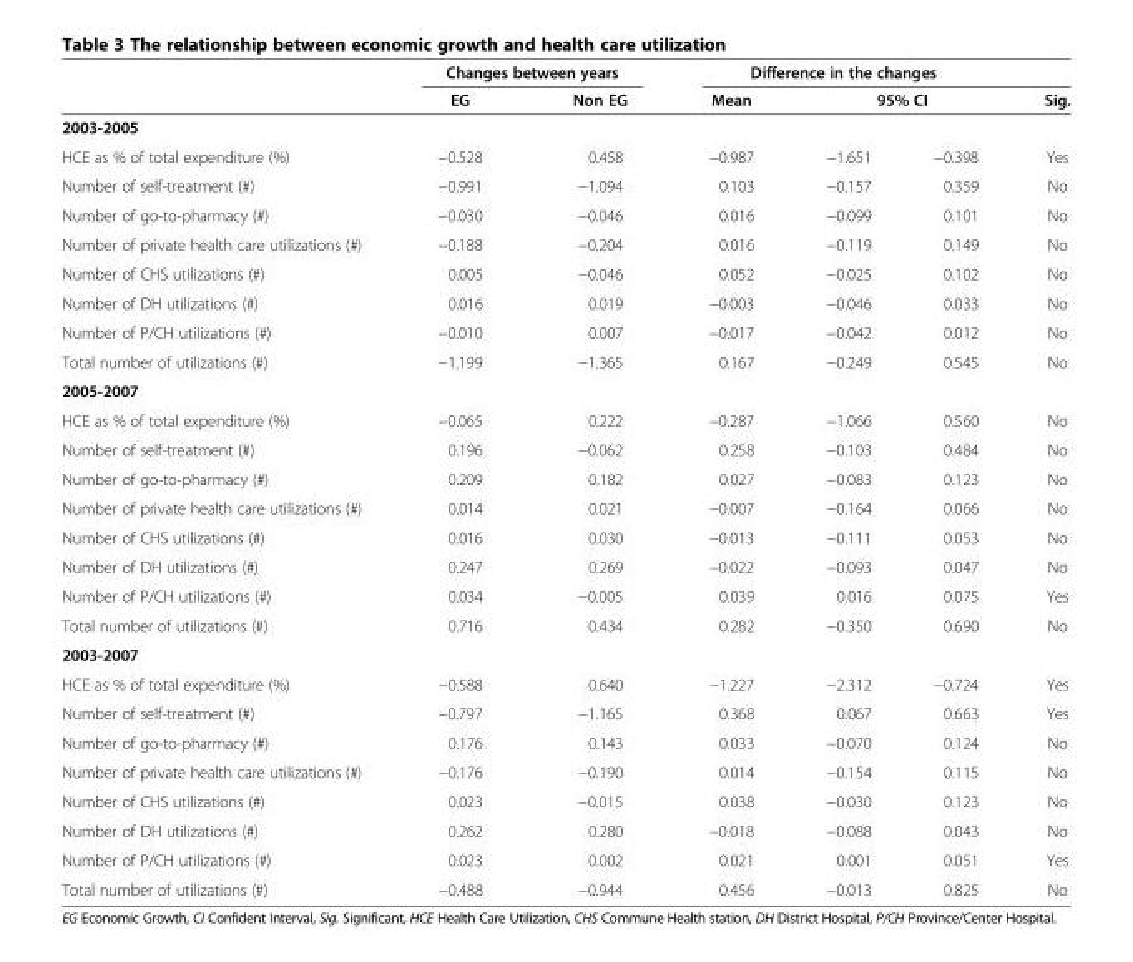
<table><thead><tr><td rowspan="3">2003-2005</td><td colspan="2">Changes between years</td><td colspan="3">Difference in the changes</td><td rowspan="3">Sig.</td></tr><tr><td rowspan="2">EG</td><td rowspan="2">Non EG</td><td rowspan="2">Mean</td><td colspan="2">95% CI</td></tr><tr><td></td><td></td></tr></thead><tbody><tr><td>HCE as % of total expenditure (%)</td><td>−0.528</td><td>0.458</td><td>−0.987</td><td>−1.651</td><td>−0.398</td><td>Yes</td></tr><tr><td>Number of self-treatment (#)</td><td>−0.991</td><td>−1.094</td><td>0.103</td><td>−0.157</td><td>0.359</td><td>No</td></tr><tr><td>Number of go-to-pharmacy (#)</td><td>−0.030</td><td>−0.046</td><td>0.016</td><td>−0.099</td><td>0.101</td><td>No</td></tr><tr><td>Number of private health care utilizations (#)</td><td>−0.188</td><td>−0.204</td><td>0.016</td><td>−0.119</td><td>0.149</td><td>No</td></tr><tr><td>Number of CHS utilizations (#)</td><td>0.005</td><td>−0.046</td><td>0.052</td><td>−0.025</td><td>0.102</td><td>No</td></tr><tr><td>Number of DH utilizations (#)</td><td>0.016</td><td>0.019</td><td>−0.003</td><td>−0.046</td><td>0.033</td><td>No</td></tr><tr><td>Number of P/CH utilizations (#)</td><td>−0.010</td><td>0.007</td><td>−0.017</td><td>−0.042</td><td>0.012</td><td>No</td></tr><tr><td>Total number of utilizations (#)</td><td>−1.199</td><td>−1.365</td><td>0.167</td><td>−0.249</td><td>0.545</td><td>No</td></tr><tr><td colspan="7">2005-2007</td></tr><tr><td>HCE as % of total expenditure (%)</td><td>−0.065</td><td>0.222</td><td>−0.287</td><td>−1.066</td><td>0.560</td><td>No</td></tr><tr><td>Number of self-treatment (#)</td><td>0.196</td><td>−0.062</td><td>0.258</td><td>−0.103</td><td>0.484</td><td>No</td></tr><tr><td>Number of go-to-pharmacy (#)</td><td>0.209</td><td>0.182</td><td>0.027</td><td>−0.083</td><td>0.123</td><td>No</td></tr><tr><td>Number of private health care utilizations (#)</td><td>0.014</td><td>0.021</td><td>−0.007</td><td>−0.164</td><td>0.066</td><td>No</td></tr><tr><td>Number of CHS utilizations (#)</td><td>0.016</td><td>0.030</td><td>−0.013</td><td>−0.111</td><td>0.053</td><td>No</td></tr><tr><td>Number of DH utilizations (#)</td><td>0.247</td><td>0.269</td><td>−0.022</td><td>−0.093</td><td>0.047</td><td>No</td></tr><tr><td>Number of P/CH utilizations (#)</td><td>0.034</td><td>−0.005</td><td>0.039</td><td>0.016</td><td>0.075</td><td>Yes</td></tr><tr><td>Total number of utilizations (#)</td><td>0.716</td><td>0.434</td><td>0.282</td><td>−0.350</td><td>0.690</td><td>No</td></tr><tr><td colspan="7">2003-2007</td></tr><tr><td>HCE as % of total expenditure (%)</td><td>−0.588</td><td>0.640</td><td>−1.227</td><td>−2.312</td><td>−0.724</td><td>Yes</td></tr><tr><td>Number of self-treatment (#)</td><td>−0.797</td><td>−1.165</td><td>0.368</td><td>0.067</td><td>0.663</td><td>Yes</td></tr><tr><td>Number of go-to-pharmacy (#)</td><td>0.176</td><td>0.143</td><td>0.033</td><td>−0.070</td><td>0.124</td><td>No</td></tr><tr><td>Number of private health care utilizations (#)</td><td>−0.176</td><td>−0.190</td><td>0.014</td><td>−0.154</td><td>0.115</td><td>No</td></tr><tr><td>Number of CHS utilizations (#)</td><td>0.023</td><td>−0.015</td><td>0.038</td><td>−0.030</td><td>0.123</td><td>No</td></tr><tr><td>Number of DH utilizations (#)</td><td>0.262</td><td>0.280</td><td>−0.018</td><td>−0.088</td><td>0.043</td><td>No</td></tr><tr><td>Number of P/CH utilizations (#)</td><td>0.023</td><td>0.002</td><td>0.021</td><td>0.001</td><td>0.051</td><td>Yes</td></tr><tr><td>Total number of utilizations (#)</td><td>−0.488</td><td>−0.944</td><td>0.456</td><td>−0.013</td><td>0.825</td><td>No</td></tr></tbody></table>